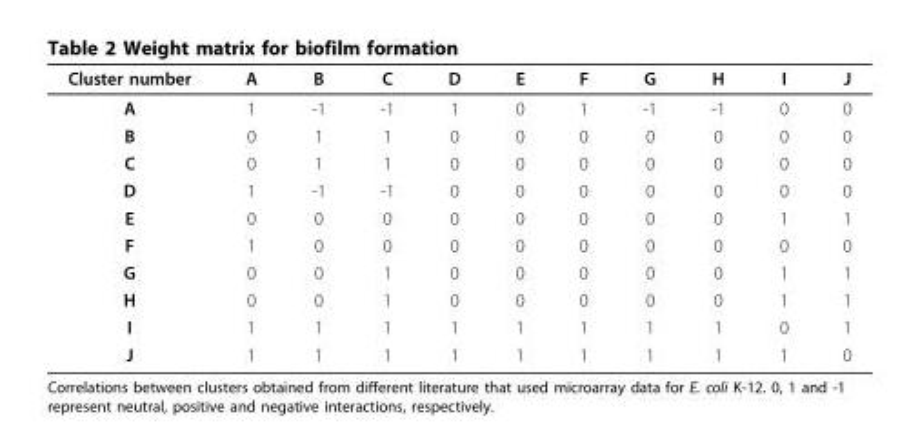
<table><thead><tr><td>Cluster number</td><td>A</td><td>B</td><td>C</td><td>D</td><td>E</td><td>F</td><td>G</td><td>H</td><td>I</td><td>J</td></tr></thead><tbody><tr><td>A</td><td>1</td><td>-1</td><td>-1</td><td>1</td><td>0</td><td>1</td><td>-1</td><td>-1</td><td>0</td><td>0</td></tr><tr><td>B</td><td>0</td><td>1</td><td>1</td><td>0</td><td>0</td><td>0</td><td>0</td><td>0</td><td>0</td><td>0</td></tr><tr><td>C</td><td>0</td><td>1</td><td>1</td><td>0</td><td>0</td><td>0</td><td>0</td><td>0</td><td>0</td><td>0</td></tr><tr><td>D</td><td>1</td><td>-1</td><td>-1</td><td>0</td><td>0</td><td>0</td><td>0</td><td>0</td><td>0</td><td>0</td></tr><tr><td>E</td><td>0</td><td>0</td><td>0</td><td>0</td><td>0</td><td>0</td><td>0</td><td>0</td><td>1</td><td>1</td></tr><tr><td>F</td><td>1</td><td>0</td><td>0</td><td>0</td><td>0</td><td>0</td><td>0</td><td>0</td><td>0</td><td>0</td></tr><tr><td>G</td><td>0</td><td>0</td><td>1</td><td>0</td><td>0</td><td>0</td><td>0</td><td>0</td><td>1</td><td>1</td></tr><tr><td>H</td><td>0</td><td>0</td><td>1</td><td>0</td><td>0</td><td>0</td><td>0</td><td>0</td><td>1</td><td>1</td></tr><tr><td>I</td><td>1</td><td>1</td><td>1</td><td>1</td><td>1</td><td>1</td><td>1</td><td>1</td><td>0</td><td>1</td></tr><tr><td>J</td><td>1</td><td>1</td><td>1</td><td>1</td><td>1</td><td>1</td><td>1</td><td>1</td><td>1</td><td>0</td></tr></tbody></table>